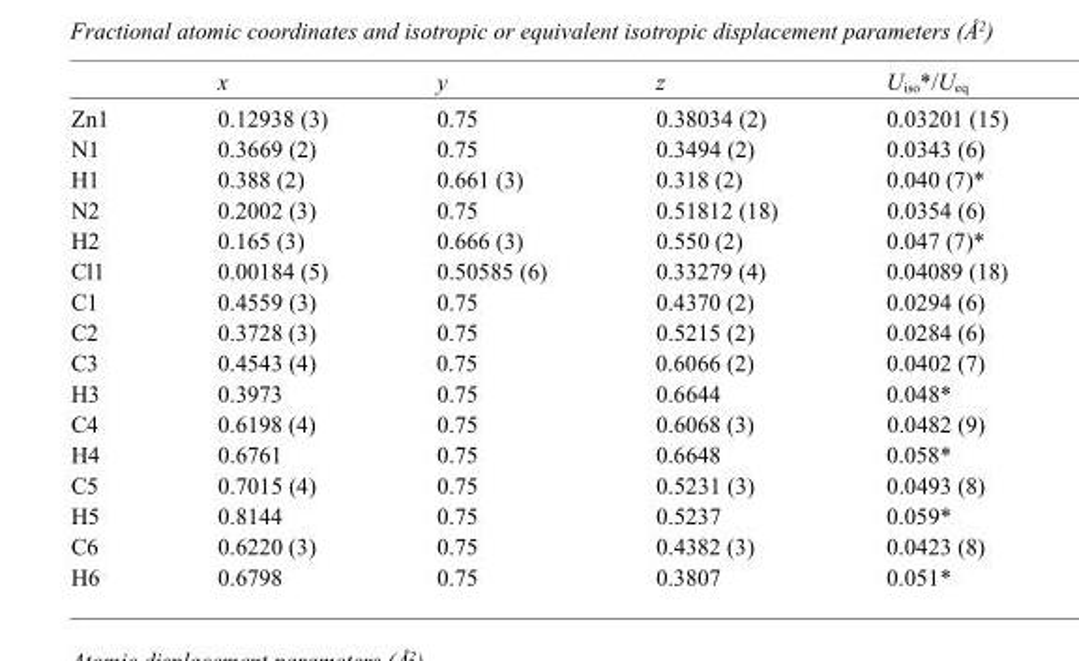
<table><thead><tr><td></td><td>x</td><td>y</td><td>z</td><td>U<sub>iso</sub>*/U<sub>eq</sub></td></tr></thead><tbody><tr><td>Zn1</td><td>0.12938 (3)</td><td>0.75</td><td>0.38034 (2)</td><td>0.03201 (15)</td></tr><tr><td>N1</td><td>0.3669 (2)</td><td>0.75</td><td>0.3494 (2)</td><td>0.0343 (6)</td></tr><tr><td>H1</td><td>0.388 (2)</td><td>0.661 (3)</td><td>0.318 (2)</td><td>0.040 (7)*</td></tr><tr><td>N2</td><td>0.2002 (3)</td><td>0.75</td><td>0.51812 (18)</td><td>0.0354 (6)</td></tr><tr><td>H2</td><td>0.165 (3)</td><td>0.666 (3)</td><td>0.550 (2)</td><td>0.047 (7)*</td></tr><tr><td>Cl1</td><td>0.00184 (5)</td><td>0.50585 (6)</td><td>0.33279 (4)</td><td>0.04089 (18)</td></tr><tr><td>C1</td><td>0.4559 (3)</td><td>0.75</td><td>0.4370 (2)</td><td>0.0294 (6)</td></tr><tr><td>C2</td><td>0.3728 (3)</td><td>0.75</td><td>0.5215 (2)</td><td>0.0284 (6)</td></tr><tr><td>C3</td><td>0.4543 (4)</td><td>0.75</td><td>0.6066 (2)</td><td>0.0402 (7)</td></tr><tr><td>H3</td><td>0.3973</td><td>0.75</td><td>0.6644</td><td>0.048*</td></tr><tr><td>C4</td><td>0.6198 (4)</td><td>0.75</td><td>0.6068 (3)</td><td>0.0482 (9)</td></tr><tr><td>H4</td><td>0.6761</td><td>0.75</td><td>0.6648</td><td>0.058*</td></tr><tr><td>C5</td><td>0.7015 (4)</td><td>0.75</td><td>0.5231 (3)</td><td>0.0493 (8)</td></tr><tr><td>H5</td><td>0.8144</td><td>0.75</td><td>0.5237</td><td>0.059*</td></tr><tr><td>C6</td><td>0.6220 (3)</td><td>0.75</td><td>0.4382 (3)</td><td>0.0423 (8)</td></tr><tr><td>H6</td><td>0.6798</td><td>0.75</td><td>0.3807</td><td>0.051*</td></tr></tbody></table>